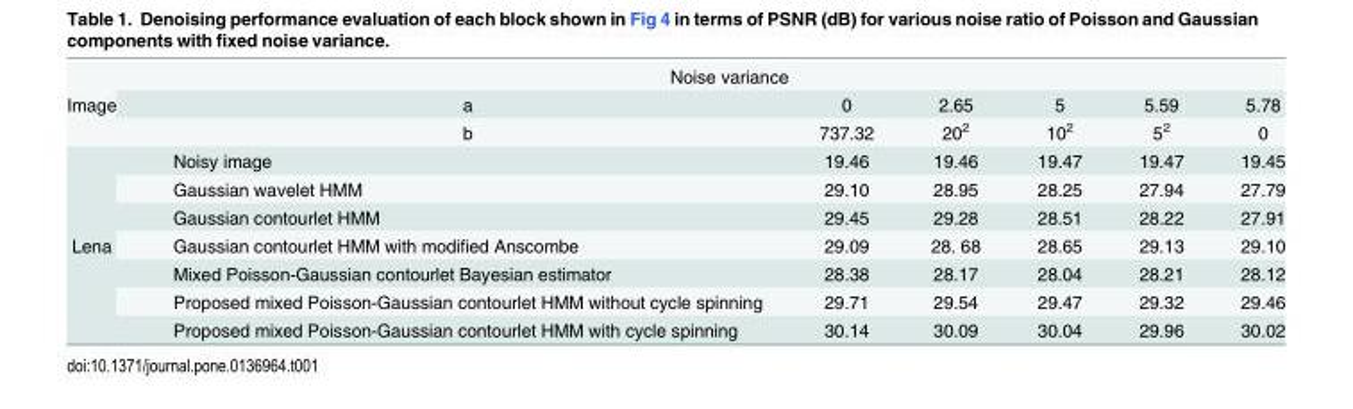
<table><tbody><tr><td rowspan="3">Image</td><td colspan="6">Noise variance</td></tr><tr><td>a</td><td>0</td><td>2.65</td><td>5</td><td>5.59</td><td>5.78</td></tr><tr><td>b</td><td>737.32</td><td>20<sup>2</sup></td><td>10<sup>2</sup></td><td>5<sup>2</sup></td><td>0</td></tr><tr><td rowspan="7">Lena</td><td>Noisy image</td><td>19.46</td><td>19.46</td><td>19.47</td><td>19.47</td><td>19.45</td></tr><tr><td>Gaussian wavelet HMM</td><td>29.10</td><td>28.95</td><td>28.25</td><td>27.94</td><td>27.79</td></tr><tr><td>Gaussian contourlet HMM</td><td>29.45</td><td>29.28</td><td>28.51</td><td>28.22</td><td>27.91</td></tr><tr><td>Gaussian contourlet HMM with modified Anscombe</td><td>29.09</td><td>28. 68</td><td>28.65</td><td>29.13</td><td>29.10</td></tr><tr><td>Mixed Poisson-Gaussian contourlet Bayesian estimator</td><td>28.38</td><td>28.17</td><td>28.04</td><td>28.21</td><td>28.12</td></tr><tr><td>Proposed mixed Poisson-Gaussian contourlet HMM without cycle spinning</td><td>29.71</td><td>29.54</td><td>29.47</td><td>29.32</td><td>29.46</td></tr><tr><td>Proposed mixed Poisson-Gaussian contourlet HMM with cycle spinning</td><td>30.14</td><td>30.09</td><td>30.04</td><td>29.96</td><td>30.02</td></tr></tbody></table>